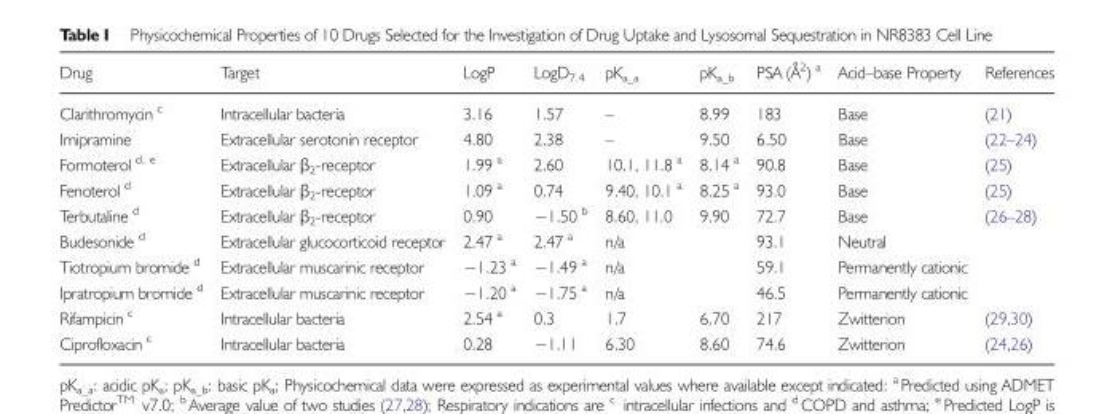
<table><thead><tr><td>Drug</td><td>Target</td><td>LogP</td><td>LogD<sub>7.4</sub></td><td>pK<sub>a_a</sub></td><td>pK<sub>a_b</sub></td><td>PSA (Å<sup>2</sup>) <sup>a</sup></td><td>Acid–base Property</td><td>References</td></tr></thead><tbody><tr><td>Clarithromycin <sup>c</sup></td><td>Intracellular bacteria</td><td>3.16</td><td>1.57</td><td>–</td><td>8.99</td><td>183</td><td>Base</td><td>(21)</td></tr><tr><td>Imipramine</td><td>Extracellular serotonin receptor</td><td>4.80</td><td>2.38</td><td>–</td><td>9.50</td><td>6.50</td><td>Base</td><td>(22–24)</td></tr><tr><td>Formoterol <sup>d, e</sup></td><td>Extracellular β<sub>2</sub>-receptor</td><td>1.99 <sup>a</sup></td><td>2.60</td><td>10.1, 11.8 <sup>a</sup></td><td>8.14 <sup>a</sup></td><td>90.8</td><td>Base</td><td>(25)</td></tr><tr><td>Fenoterol <sup>d</sup></td><td>Extracellular β<sub>2</sub>-receptor</td><td>1.09 <sup>a</sup></td><td>0.74</td><td>9.40, 10.1 <sup>a</sup></td><td>8.25 <sup>a</sup></td><td>93.0</td><td>Base</td><td>(25)</td></tr><tr><td>Terbutaline <sup>d</sup></td><td>Extracellular β<sub>2</sub>-receptor</td><td>0.90</td><td>−1.50 <sup>b</sup></td><td>8.60, 11.0</td><td>9.90</td><td>72.7</td><td>Base</td><td>(26–28)</td></tr><tr><td>Budesonide <sup>d</sup></td><td>Extracellular glucocorticoid receptor</td><td>2.47 <sup>a</sup></td><td>2.47 <sup>a</sup></td><td>n/a</td><td></td><td>93.1</td><td>Neutral</td><td></td></tr><tr><td>Tiotropium bromide <sup>d</sup></td><td>Extracellular muscarinic receptor</td><td>−1.23 <sup>a</sup></td><td>−1.49 <sup>a</sup></td><td>n/a</td><td></td><td>59.1</td><td>Permanently cationic</td><td></td></tr><tr><td>Ipratropium bromide <sup>d</sup></td><td>Extracellular muscarinic receptor</td><td>−1.20 <sup>a</sup></td><td>−1.75 <sup>a</sup></td><td>n/a</td><td></td><td>46.5</td><td>Permanently cationic</td><td></td></tr><tr><td>Rifampicin <sup>c</sup></td><td>Intracellular bacteria</td><td>2.54 <sup>a</sup></td><td>0.3</td><td>1.7</td><td>6.70</td><td>217</td><td>Zwitterion</td><td>(29,30)</td></tr><tr><td>Ciprofloxacin <sup>c</sup></td><td>Intracellular bacteria</td><td>0.28</td><td>−1.11</td><td>6.30</td><td>8.60</td><td>74.6</td><td>Zwitterion</td><td>(24,26)</td></tr></tbody></table>